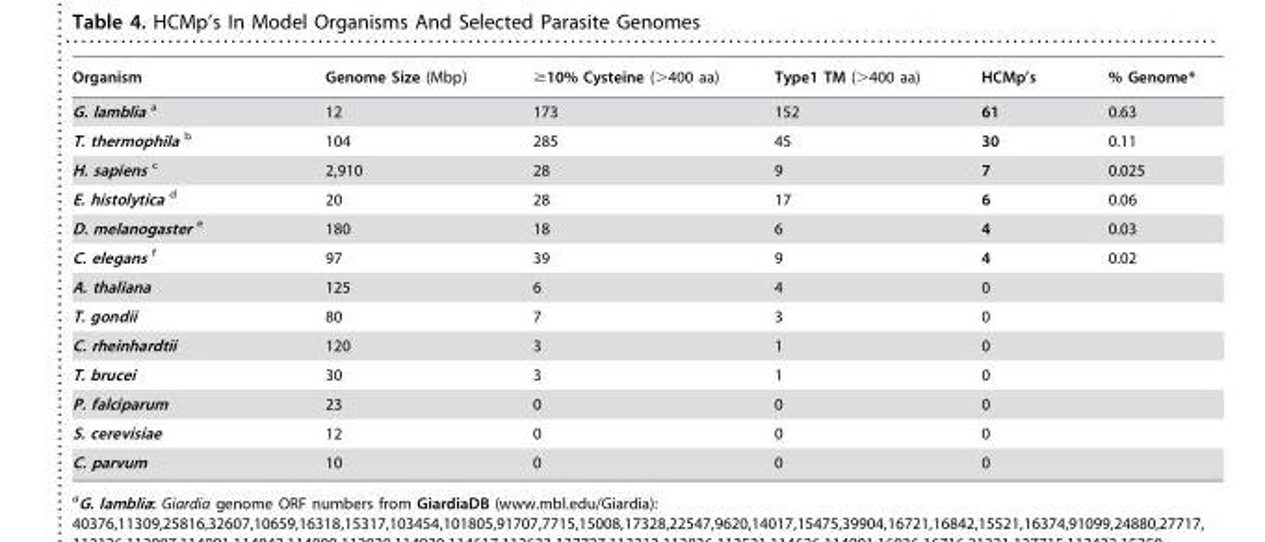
<table><thead><tr><td>Organism</td><td>Genome Size (Mbp)</td><td>≥10% Cysteine (&gt;400 aa)</td><td>Type1 TM (&gt;400 aa)</td><td>HCMp’s</td><td>% Genome*</td></tr></thead><tbody><tr><td>G. lamblia a</td><td>12</td><td>173</td><td>152</td><td>61</td><td>0.63</td></tr><tr><td>T. thermophila b</td><td>104</td><td>285</td><td>45</td><td>30</td><td>0.11</td></tr><tr><td>H. sapiens c</td><td>2,910</td><td>28</td><td>9</td><td>7</td><td>0.025</td></tr><tr><td>E. histolytica d</td><td>20</td><td>28</td><td>17</td><td>6</td><td>0.06</td></tr><tr><td>D. melanogaster e</td><td>180</td><td>18</td><td>6</td><td>4</td><td>0.03</td></tr><tr><td>C. elegans f</td><td>97</td><td>39</td><td>9</td><td>4</td><td>0.02</td></tr><tr><td>A. thaliana</td><td>125</td><td>6</td><td>4</td><td>0</td><td></td></tr><tr><td>T. gondii</td><td>80</td><td>7</td><td>3</td><td>0</td><td></td></tr><tr><td>C. rheinhardtii</td><td>120</td><td>3</td><td>1</td><td>0</td><td></td></tr><tr><td>T. brucei</td><td>30</td><td>3</td><td>1</td><td>0</td><td></td></tr><tr><td>P. falciparum</td><td>23</td><td>0</td><td>0</td><td>0</td><td></td></tr><tr><td>S. cerevisiae</td><td>12</td><td>0</td><td>0</td><td>0</td><td></td></tr><tr><td>C. parvum</td><td>10</td><td>0</td><td>0</td><td>0</td><td></td></tr></tbody></table>